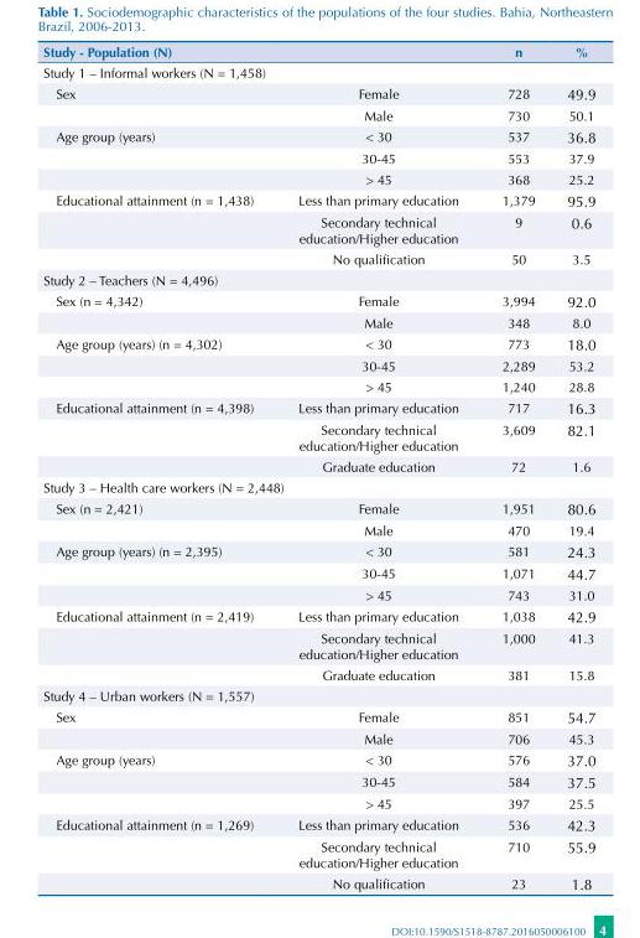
<table><thead><tr><td rowspan="2" colspan="2">Study - Population (N) Study 1 – Informal workers (N = 1,458)</td><td rowspan="3">n 728</td><td rowspan="3">% 49.9</td></tr><tr></tr><tr><td>Sex</td><td>Female</td></tr></thead><tbody><tr><td></td><td>Male</td><td>730</td><td>50.1</td></tr><tr><td rowspan="3">Age group (years)</td><td>&lt; 30</td><td>537</td><td>36.8</td></tr><tr><td>30-45</td><td>553</td><td>37.9</td></tr><tr><td>&gt; 45</td><td>368</td><td>25.2</td></tr><tr><td rowspan="3">Educational attainment (n = 1,438)</td><td>Less than primary education</td><td>1,379</td><td>95.9</td></tr><tr><td>Secondary technical education/Higher education</td><td>9</td><td>0.6</td></tr><tr><td>No qualification</td><td>50</td><td>3.5</td></tr><tr><td colspan="4">Study 2 – Teachers (N = 4,496)</td></tr><tr><td rowspan="2">Sex (n = 4,342)</td><td>Female</td><td>3,994</td><td>92.0</td></tr><tr><td>Male</td><td>348</td><td>8.0</td></tr><tr><td rowspan="3">Age group (years) (n = 4,302)</td><td>&lt; 30</td><td>773</td><td>18.0</td></tr><tr><td>30-45</td><td>2,289</td><td>53.2</td></tr><tr><td>&gt; 45</td><td>1,240</td><td>28.8</td></tr><tr><td rowspan="3">Educational attainment (n = 4,398)</td><td>Less than primary education</td><td>717</td><td>16.3</td></tr><tr><td>Secondary technical education/Higher education</td><td>3,609</td><td>82.1</td></tr><tr><td>Graduate education</td><td>72</td><td>1.6</td></tr><tr><td colspan="4">Study 3 – Health care workers (N = 2,448)</td></tr><tr><td rowspan="2">Sex (n = 2,421)</td><td>Female</td><td>1,951</td><td>80.6</td></tr><tr><td>Male</td><td>470</td><td>19.4</td></tr><tr><td rowspan="3">Age group (years) (n = 2,395)</td><td>&lt; 30</td><td>581</td><td>24.3</td></tr><tr><td>30-45</td><td>1,071</td><td>44.7</td></tr><tr><td>&gt; 45</td><td>743</td><td>31.0</td></tr><tr><td rowspan="3">Educational attainment (n = 2,419)</td><td>Less than primary education</td><td>1,038</td><td>42.9</td></tr><tr><td>Secondary technical education/Higher education</td><td>1,000</td><td>41.3</td></tr><tr><td>Graduate education</td><td>381</td><td>15.8</td></tr><tr><td colspan="4">Study 4 – Urban workers (N = 1,557)</td></tr><tr><td rowspan="2">Sex</td><td>Female</td><td>851</td><td>54.7</td></tr><tr><td>Male</td><td>706</td><td>45.3</td></tr><tr><td rowspan="3">Age group (years)</td><td>&lt; 30</td><td>576</td><td>37.0</td></tr><tr><td>30-45</td><td>584</td><td>37.5</td></tr><tr><td>&gt; 45</td><td>397</td><td>25.5</td></tr><tr><td rowspan="3">Educational attainment (n = 1,269)</td><td>Less than primary education</td><td>536</td><td>42.3</td></tr><tr><td>Secondary technical education/Higher education</td><td>710</td><td>55.9</td></tr><tr><td>No qualification</td><td>23</td><td>1.8</td></tr></tbody></table>